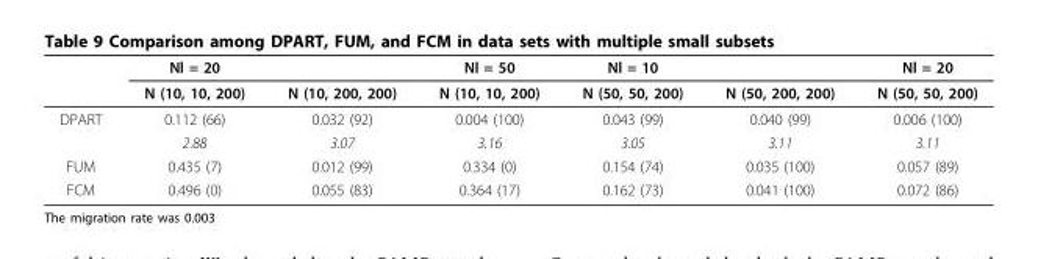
<table><thead><tr><td rowspan="2"></td><td rowspan="2">Nl = 20 N (10, 10, 200)</td><td rowspan="2">N (10, 200, 200)</td><td rowspan="2">Nl = 50 N (10, 10, 200)</td><td rowspan="2">Nl = 10 N (50, 50, 200)</td><td rowspan="2">N (50, 200, 200)</td><td rowspan="2">Nl = 20 N (50, 50, 200)</td></tr><tr></tr></thead><tbody><tr><td rowspan="2">DPART</td><td>0.112 (66)</td><td>0.032 (92)</td><td>0.004 (100)</td><td>0.043 (99)</td><td>0.040 (99)</td><td>0.006 (100)</td></tr><tr><td>2.88</td><td>3.07</td><td>3.16</td><td>3.05</td><td>3.11</td><td>3.11</td></tr><tr><td>FUM</td><td>0.435 (7)</td><td>0.012 (99)</td><td>0.334 (0)</td><td>0.154 (74)</td><td>0.035 (100)</td><td>0.057 (89)</td></tr><tr><td>FCM</td><td>0.496 (0)</td><td>0.055 (83)</td><td>0.364 (17)</td><td>0.162 (73)</td><td>0.041 (100)</td><td>0.072 (86)</td></tr></tbody></table>